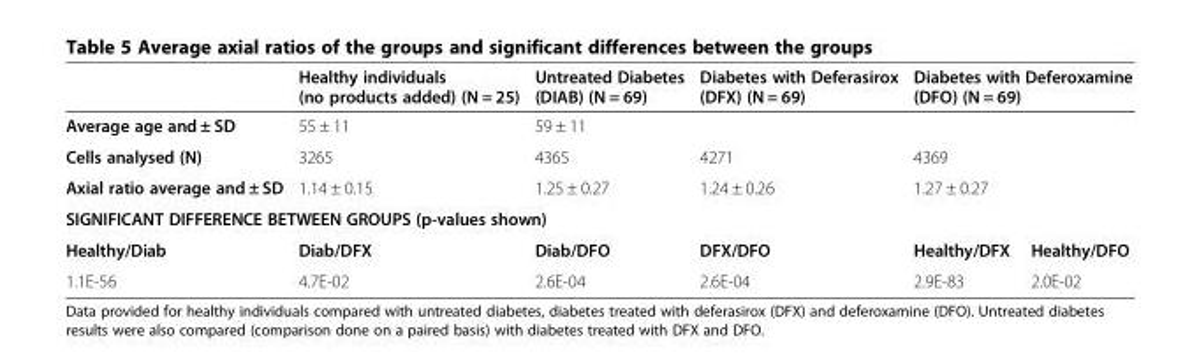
<table><thead><tr><td></td><td>Healthy individuals (no products added) (N = 25)</td><td>Untreated Diabetes (DIAB) (N = 69)</td><td>Diabetes with Deferasirox (DFX) (N = 69)</td><td colspan="2">Diabetes with Deferoxamine (DFO) (N = 69)</td></tr></thead><tbody><tr><td>Average age and ± SD</td><td>55 ± 11</td><td colspan="4">59 ± 11</td></tr><tr><td>Cells analysed (N)</td><td>3265</td><td>4365</td><td>4271</td><td colspan="2">4369</td></tr><tr><td>Axial ratio average and ± SD</td><td>1.14 ± 0.15</td><td>1.25 ± 0.27</td><td>1.24 ± 0.26</td><td colspan="2">1.27 ± 0.27</td></tr><tr><td colspan="6">SIGNIFICANT DIFFERENCE BETWEEN GROUPS (p-values shown)</td></tr><tr><td>Healthy/Diab</td><td>Diab/DFX</td><td>Diab/DFO</td><td>DFX/DFO</td><td>Healthy/DFX</td><td>Healthy/DFO</td></tr><tr><td>1.1E-56</td><td>4.7E-02</td><td>2.6E-04</td><td>2.6E-04</td><td>2.9E-83</td><td>2.0E-02</td></tr></tbody></table>